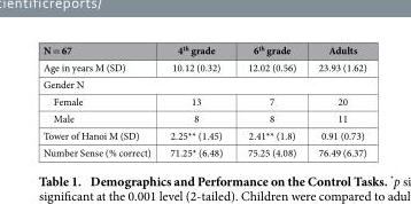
<table><thead><tr><td>N = 67</td><td>4<sup>th</sup> grade</td><td>6<sup>th</sup> grade</td><td>Adults</td></tr></thead><tbody><tr><td>Age in years M (SD)</td><td>10.12 (0.32)</td><td>12.02 (0.56)</td><td>23.93 (1.62)</td></tr><tr><td colspan="4">Gender N</td></tr><tr><td>Female</td><td>13</td><td>7</td><td>20</td></tr><tr><td>Male</td><td>8</td><td>8</td><td>11</td></tr><tr><td>Tower of Hanoi M (SD)</td><td>2.25** (1.45)</td><td>2.41** (1.8)</td><td>0.91 (0.73)</td></tr><tr><td>Number Sense (% correct)</td><td>71.25* (6.48)</td><td>75.25 (4.08)</td><td>76.49 (6.37)</td></tr></tbody></table>